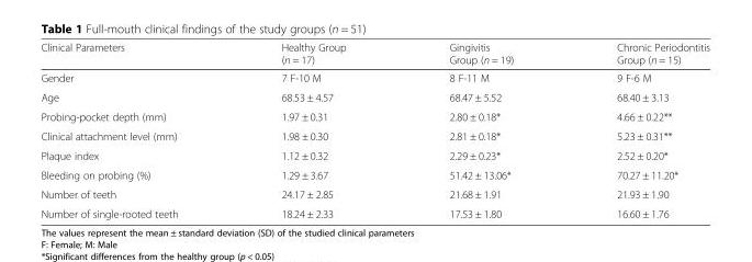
<table><thead><tr><td>Clinical Parameters</td><td>Healthy Group (n = 17)</td><td>Gingivitis Group (n = 19)</td><td>Chronic Periodontitis Group (n = 15)</td></tr></thead><tbody><tr><td>Gender</td><td>7 F-10 M</td><td>8 F-11 M</td><td>9 F-6 M</td></tr><tr><td>Age</td><td>68.53 ± 4.57</td><td>68.47 ± 5.52</td><td>68.40 ± 3.13</td></tr><tr><td>Probing-pocket depth (mm)</td><td>1.97 ± 0.31</td><td>2.80 ± 0.18*</td><td>4.66 ± 0.22**</td></tr><tr><td>Clinical attachment level (mm)</td><td>1.98 ± 0.30</td><td>2.81 ± 0.18*</td><td>5.23 ± 0.31**</td></tr><tr><td>Plaque index</td><td>1.12 ± 0.32</td><td>2.29 ± 0.23*</td><td>2.52 ± 0.20*</td></tr><tr><td>Bleeding on probing (%)</td><td>1.29 ± 3.67</td><td>51.42 ± 13.06*</td><td>70.27 ± 11.20*</td></tr><tr><td>Number of teeth</td><td>24.17 ± 2.85</td><td>21.68 ± 1.91</td><td>21.93 ± 1.90</td></tr><tr><td>Number of single-rooted teeth</td><td>18.24 ± 2.33</td><td>17.53 ± 1.80</td><td>16.60 ± 1.76</td></tr></tbody></table>